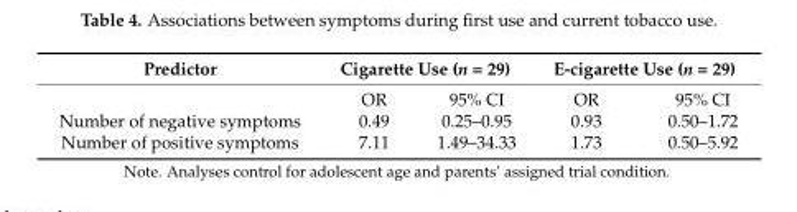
<table><thead><tr><td rowspan="2">Predictor</td><td colspan="2">Cigarette Use (n = 29)</td><td colspan="2">E-cigarette Use (n = 29)</td></tr><tr><td>OR</td><td>95% CI</td><td>OR</td><td>95% CI</td></tr></thead><tbody><tr><td>Number of negative symptoms</td><td>0.49</td><td>0.25–0.95</td><td>0.93</td><td>0.50–1.72</td></tr><tr><td>Number of positive symptoms</td><td>7.11</td><td>1.49–34.33</td><td>1.73</td><td>0.50–5.92</td></tr></tbody></table>